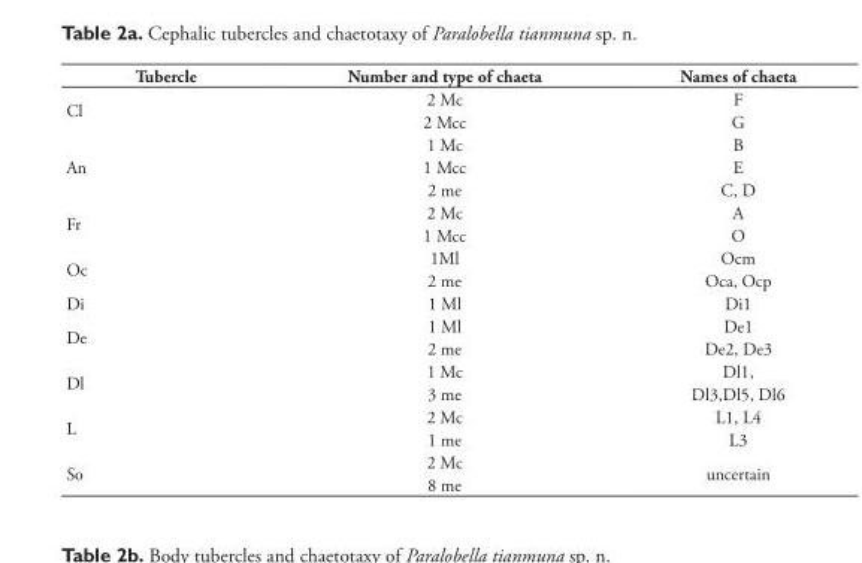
<table><thead><tr><td>Tubercle</td><td>Number and type of chaeta</td><td>Names of chaeta</td></tr></thead><tbody><tr><td rowspan="2">Cl</td><td>2 Mc</td><td>F</td></tr><tr><td>2 Mcc</td><td>G</td></tr><tr><td rowspan="3">An</td><td>1 Mc</td><td>B</td></tr><tr><td>1 Mcc</td><td>E</td></tr><tr><td>2 me</td><td>C, D</td></tr><tr><td rowspan="2">Fr</td><td>2 Mc</td><td>A</td></tr><tr><td>1 Mcc</td><td>O</td></tr><tr><td rowspan="2">Oc</td><td>1Ml</td><td>Ocm</td></tr><tr><td>2 me</td><td>Oca, Ocp</td></tr><tr><td>Di</td><td>1 Ml</td><td>Di1</td></tr><tr><td rowspan="2">De</td><td>1 Ml</td><td>De1</td></tr><tr><td>2 me</td><td>De2, De3</td></tr><tr><td rowspan="2">Dl</td><td>1 Mc</td><td>Dl1,</td></tr><tr><td>3 me</td><td>Dl3,Dl5, Dl6</td></tr><tr><td rowspan="2">L</td><td>2 Mc</td><td>L1, L4</td></tr><tr><td>1 me</td><td>L3</td></tr><tr><td rowspan="2">So</td><td>2 Mc</td><td rowspan="2">uncertain</td></tr><tr><td>8 me</td></tr></tbody></table>